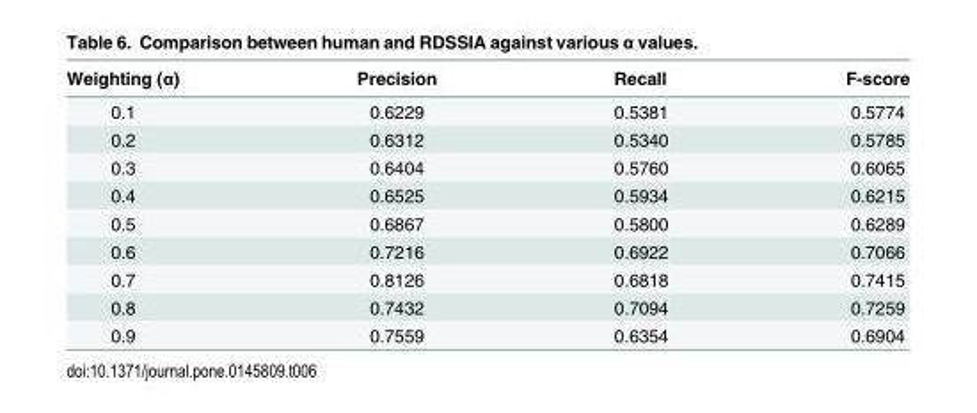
<table><thead><tr><td>Weighting (α)</td><td>Precision</td><td>Recall</td><td>F-score</td></tr></thead><tbody><tr><td>0.1</td><td>0.6229</td><td>0.5381</td><td>0.5774</td></tr><tr><td>0.2</td><td>0.6312</td><td>0.5340</td><td>0.5785</td></tr><tr><td>0.3</td><td>0.6404</td><td>0.5760</td><td>0.6065</td></tr><tr><td>0.4</td><td>0.6525</td><td>0.5934</td><td>0.6215</td></tr><tr><td>0.5</td><td>0.6867</td><td>0.5800</td><td>0.6289</td></tr><tr><td>0.6</td><td>0.7216</td><td>0.6922</td><td>0.7066</td></tr><tr><td>0.7</td><td>0.8126</td><td>0.6818</td><td>0.7415</td></tr><tr><td>0.8</td><td>0.7432</td><td>0.7094</td><td>0.7259</td></tr><tr><td>0.9</td><td>0.7559</td><td>0.6354</td><td>0.6904</td></tr></tbody></table>